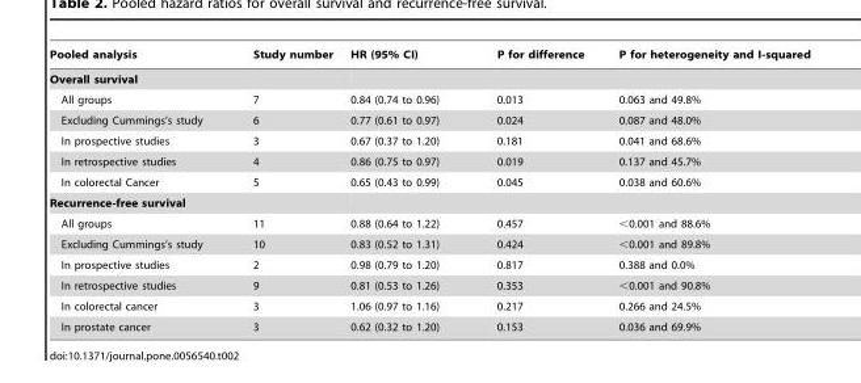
<table><thead><tr><td>Pooled analysis</td><td>Study number</td><td>HR (95% CI)</td><td>P for difference</td><td>P for heterogeneity and I-squared</td></tr></thead><tbody><tr><td colspan="5">Overall survival</td></tr><tr><td>All groups</td><td>7</td><td>0.84 (0.74 to 0.96)</td><td>0.013</td><td>0.063 and 49.8%</td></tr><tr><td>Excluding Cummings’s study</td><td>6</td><td>0.77 (0.61 to 0.97)</td><td>0.024</td><td>0.087 and 48.0%</td></tr><tr><td>In prospective studies</td><td>3</td><td>0.67 (0.37 to 1.20)</td><td>0.181</td><td>0.041 and 68.6%</td></tr><tr><td>In retrospective studies</td><td>4</td><td>0.86 (0.75 to 0.97)</td><td>0.019</td><td>0.137 and 45.7%</td></tr><tr><td>In colorectal Cancer</td><td>5</td><td>0.65 (0.43 to 0.99)</td><td>0.045</td><td>0.038 and 60.6%</td></tr><tr><td colspan="5">Recurrence-free survival</td></tr><tr><td>All groups</td><td>11</td><td>0.88 (0.64 to 1.22)</td><td>0.457</td><td>&lt;0.001 and 88.6%</td></tr><tr><td>Excluding Cummings’s study</td><td>10</td><td>0.83 (0.52 to 1.31)</td><td>0.424</td><td>&lt;0.001 and 89.8%</td></tr><tr><td>In prospective studies</td><td>2</td><td>0.98 (0.79 to 1.20)</td><td>0.817</td><td>0.388 and 0.0%</td></tr><tr><td>In retrospective studies</td><td>9</td><td>0.81 (0.53 to 1.26)</td><td>0.353</td><td>&lt;0.001 and 90.8%</td></tr><tr><td>In colorectal cancer</td><td>3</td><td>1.06 (0.97 to 1.16)</td><td>0.217</td><td>0.266 and 24.5%</td></tr><tr><td>In prostate cancer</td><td>3</td><td>0.62 (0.32 to 1.20)</td><td>0.153</td><td>0.036 and 69.9%</td></tr></tbody></table>